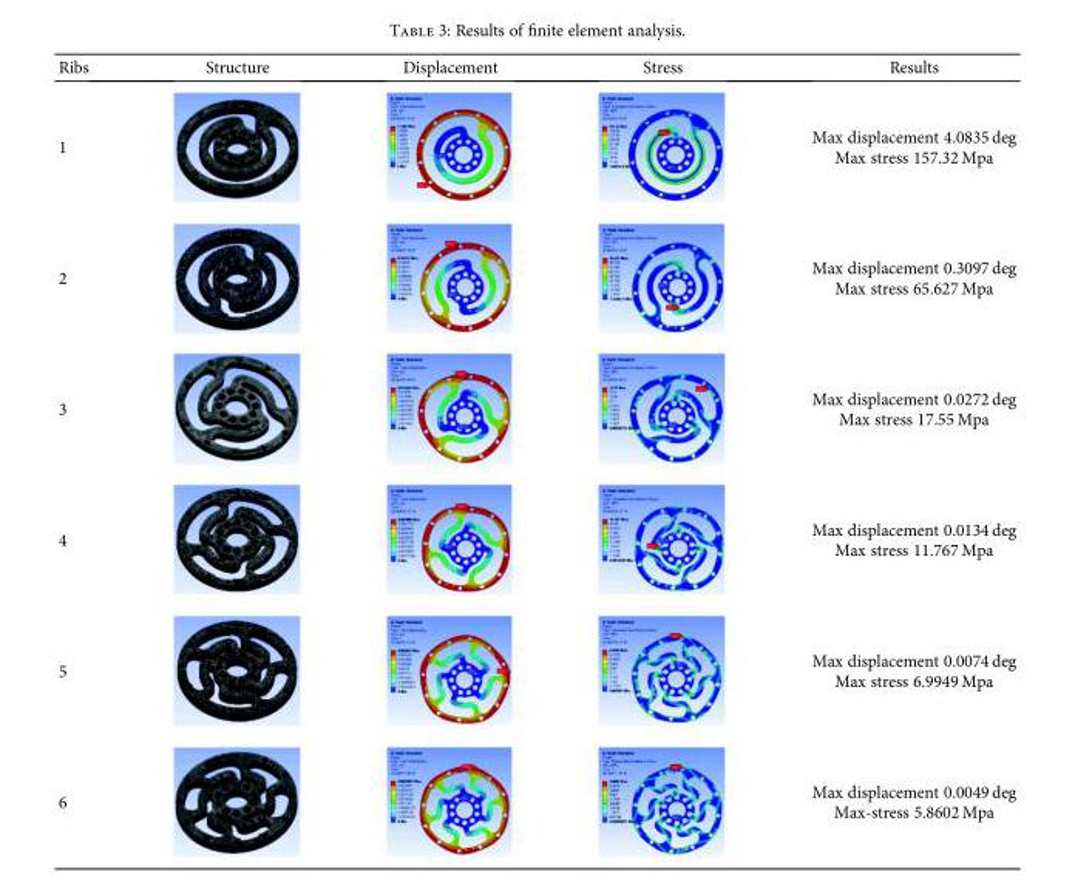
<table><thead><tr><td>Ribs</td><td>Structure</td><td>Displacement</td><td>Stress</td><td>Results</td></tr></thead><tbody><tr><td>1</td><td></td><td></td><td></td><td>Max displacement 4.0835 deg Max stress 157.32 Mpa</td></tr><tr><td>2</td><td></td><td></td><td></td><td>Max displacement 0.3097 deg Max stress 65.627 Mpa</td></tr><tr><td>3</td><td></td><td></td><td></td><td>Max displacement 0.0272 deg Max stress 17.55 Mpa</td></tr><tr><td>4</td><td></td><td></td><td></td><td>Max displacement 0.0134 deg Max stress 11.767 Mpa</td></tr><tr><td>5</td><td></td><td></td><td></td><td>Max displacement 0.0074 deg Max stress 6.9949 Mpa</td></tr><tr><td>6</td><td></td><td></td><td></td><td>Max displacement 0.0049 deg Max-stress 5.8602 Mpa</td></tr></tbody></table>